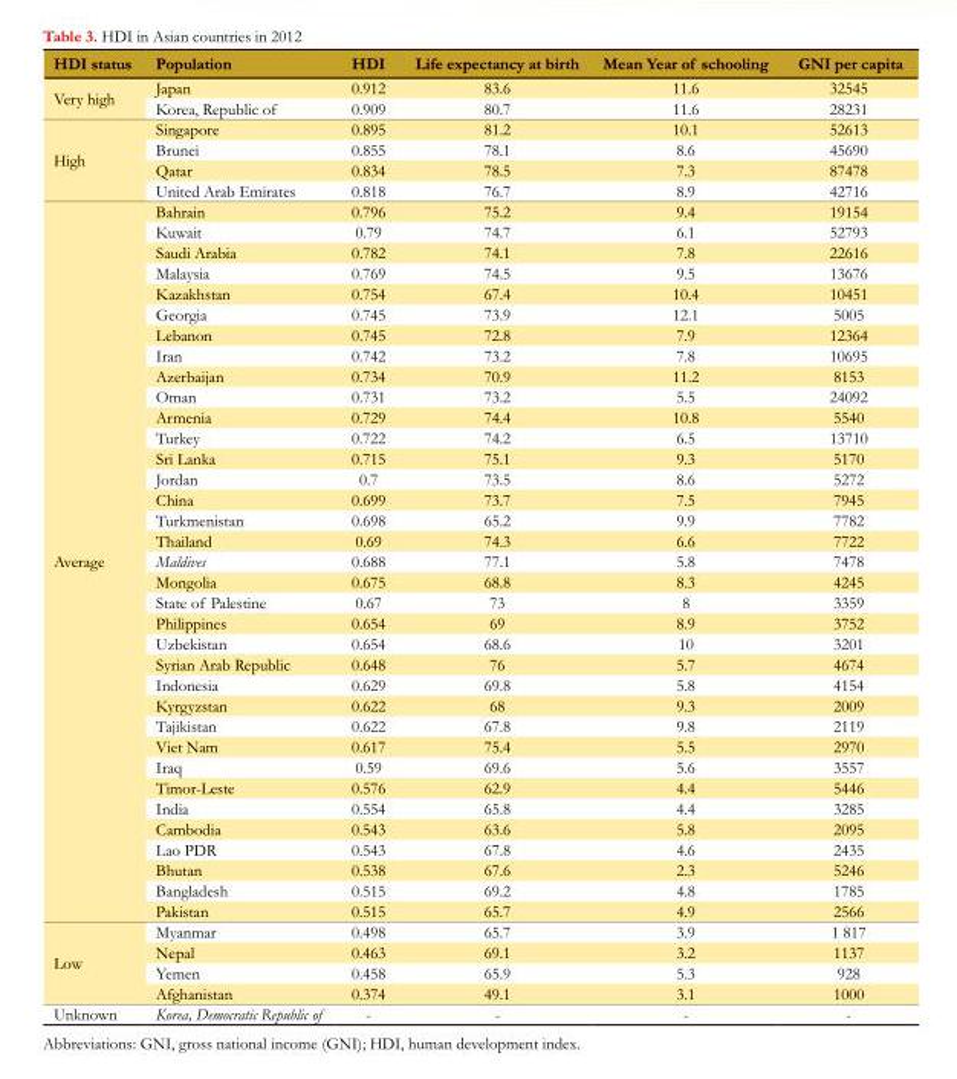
<table><tbody><tr><td>HDI status</td><td>Population</td><td>HDI</td><td>Life expectancy at birth</td><td>Mean Year of schooling</td><td>GNI per capita</td></tr><tr><td rowspan="2">Very high</td><td>Japan</td><td>0.912</td><td>83.6</td><td>11.6</td><td>32545</td></tr><tr><td>Korea, Republic of</td><td>0.909</td><td>80.7</td><td>11.6</td><td>28231</td></tr><tr><td rowspan="4">High</td><td>Singapore</td><td>0.895</td><td>81.2</td><td>10.1</td><td>52613</td></tr><tr><td>Brunei</td><td>0.855</td><td>78.1</td><td>8.6</td><td>45690</td></tr><tr><td>Qatar</td><td>0.834</td><td>78.5</td><td>7.3</td><td>87478</td></tr><tr><td>United Arab Emirates</td><td>0.818</td><td>76.7</td><td>8.9</td><td>42716</td></tr><tr><td rowspan="35">Average</td><td>Bahrain</td><td>0.796</td><td>75.2</td><td>9.4</td><td>19154</td></tr><tr><td>Kuwait</td><td>0.79</td><td>74.7</td><td>6.1</td><td>52793</td></tr><tr><td>Saudi Arabia</td><td>0.782</td><td>74.1</td><td>7.8</td><td>22616</td></tr><tr><td>Malaysia</td><td>0.769</td><td>74.5</td><td>9.5</td><td>13676</td></tr><tr><td>Kazakhstan</td><td>0.754</td><td>67.4</td><td>10.4</td><td>10451</td></tr><tr><td>Georgia</td><td>0.745</td><td>73.9</td><td>12.1</td><td>5005</td></tr><tr><td>Lebanon</td><td>0.745</td><td>72.8</td><td>7.9</td><td>12364</td></tr><tr><td>Iran</td><td>0.742</td><td>73.2</td><td>7.8</td><td>10695</td></tr><tr><td>Azerbaijan</td><td>0.734</td><td>70.9</td><td>11.2</td><td>8153</td></tr><tr><td>Oman</td><td>0.731</td><td>73.2</td><td>5.5</td><td>24092</td></tr><tr><td>Armenia</td><td>0.729</td><td>74.4</td><td>10.8</td><td>5540</td></tr><tr><td>Turkey</td><td>0.722</td><td>74.2</td><td>6.5</td><td>13710</td></tr><tr><td>Sri Lanka</td><td>0.715</td><td>75.1</td><td>9.3</td><td>5170</td></tr><tr><td>Jordan</td><td>0.7</td><td>73.5</td><td>8.6</td><td>5272</td></tr><tr><td>China</td><td>0.699</td><td>73.7</td><td>7.5</td><td>7945</td></tr><tr><td>Turkmenistan</td><td>0.698</td><td>65.2</td><td>9.9</td><td>7782</td></tr><tr><td>Thailand</td><td>0.69</td><td>74.3</td><td>6.6</td><td>7722</td></tr><tr><td>Maldives</td><td>0.688</td><td>77.1</td><td>5.8</td><td>7478</td></tr><tr><td>Mongolia</td><td>0.675</td><td>68.8</td><td>8.3</td><td>4245</td></tr><tr><td>State of Palestine</td><td>0.67</td><td>73</td><td>8</td><td>3359</td></tr><tr><td>Philippines</td><td>0.654</td><td>69</td><td>8.9</td><td>3752</td></tr><tr><td>Uzbekistan</td><td>0.654</td><td>68.6</td><td>10</td><td>3201</td></tr><tr><td>Syrian Arab Republic</td><td>0.648</td><td>76</td><td>5.7</td><td>4674</td></tr><tr><td>Indonesia</td><td>0.629</td><td>69.8</td><td>5.8</td><td>4154</td></tr><tr><td>Kyrgyzstan</td><td>0.622</td><td>68</td><td>9.3</td><td>2009</td></tr><tr><td>Tajikistan</td><td>0.622</td><td>67.8</td><td>9.8</td><td>2119</td></tr><tr><td>Viet Nam</td><td>0.617</td><td>75.4</td><td>5.5</td><td>2970</td></tr><tr><td>Iraq</td><td>0.59</td><td>69.6</td><td>5.6</td><td>3557</td></tr><tr><td>Timor-Leste</td><td>0.576</td><td>62.9</td><td>4.4</td><td>5446</td></tr><tr><td>India</td><td>0.554</td><td>65.8</td><td>4.4</td><td>3285</td></tr><tr><td>Cambodia</td><td>0.543</td><td>63.6</td><td>5.8</td><td>2095</td></tr><tr><td>Lao PDR</td><td>0.543</td><td>67.8</td><td>4.6</td><td>2435</td></tr><tr><td>Bhutan</td><td>0.538</td><td>67.6</td><td>2.3</td><td>5246</td></tr><tr><td>Bangladesh</td><td>0.515</td><td>69.2</td><td>4.8</td><td>1785</td></tr><tr><td>Pakistan</td><td>0.515</td><td>65.7</td><td>4.9</td><td>2566</td></tr><tr><td rowspan="4">Low</td><td>Myanmar</td><td>0.498</td><td>65.7</td><td>3.9</td><td>1 817</td></tr><tr><td>Nepal</td><td>0.463</td><td>69.1</td><td>3.2</td><td>1137</td></tr><tr><td>Yemen</td><td>0.458</td><td>65.9</td><td>5.3</td><td>928</td></tr><tr><td>Afghanistan</td><td>0.374</td><td>49.1</td><td>3.1</td><td>1000</td></tr><tr><td>Unknown</td><td>Korea, Democratic Republic of</td><td>-</td><td>-</td><td>-</td><td>-</td></tr></tbody></table>